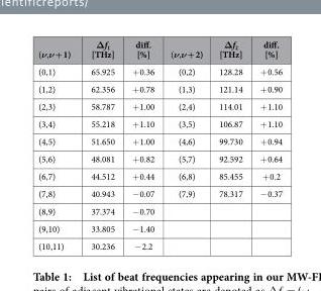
<table><thead><tr><td>(ν,ν + 1)</td><td>Δf<sub>1</sub> [THz]</td><td>diff. [%]</td><td>(ν,ν + 2)</td><td>Δf<sub>2</sub> [THz]</td><td>diff. [%]</td></tr></thead><tbody><tr><td>(0,1)</td><td>65.925</td><td>+ 0.36</td><td>(0,2)</td><td>128.28</td><td>+ 0.56</td></tr><tr><td>(1,2)</td><td>62.356</td><td>+ 0.78</td><td>(1,3)</td><td>121.14</td><td>+ 0.90</td></tr><tr><td>(2,3)</td><td>58.787</td><td>+ 1.00</td><td>(2,4)</td><td>114.01</td><td>+ 1.10</td></tr><tr><td>(3,4)</td><td>55.218</td><td>+ 1.10</td><td>(3,5)</td><td>106.87</td><td>+ 1.10</td></tr><tr><td>(4,5)</td><td>51.650</td><td>+ 1.00</td><td>(4,6)</td><td>99.730</td><td>+ 0.94</td></tr><tr><td>(5,6)</td><td>48.081</td><td>+ 0.82</td><td>(5,7)</td><td>92.592</td><td>+ 0.64</td></tr><tr><td>(6,7)</td><td>44.512</td><td>+ 0.44</td><td>(6,8)</td><td>85.455</td><td>+ 0.2</td></tr><tr><td>(7,8)</td><td>40.943</td><td>− 0.07</td><td>(7,9)</td><td>78.317</td><td>− 0.37</td></tr><tr><td>(8,9)</td><td>37.374</td><td>− 0.70</td><td></td><td></td><td></td></tr><tr><td>(9,10)</td><td>33.805</td><td>− 1.40</td><td></td><td></td><td></td></tr><tr><td>(10,11)</td><td>30.236</td><td>− 2.2</td><td></td><td></td><td></td></tr></tbody></table>